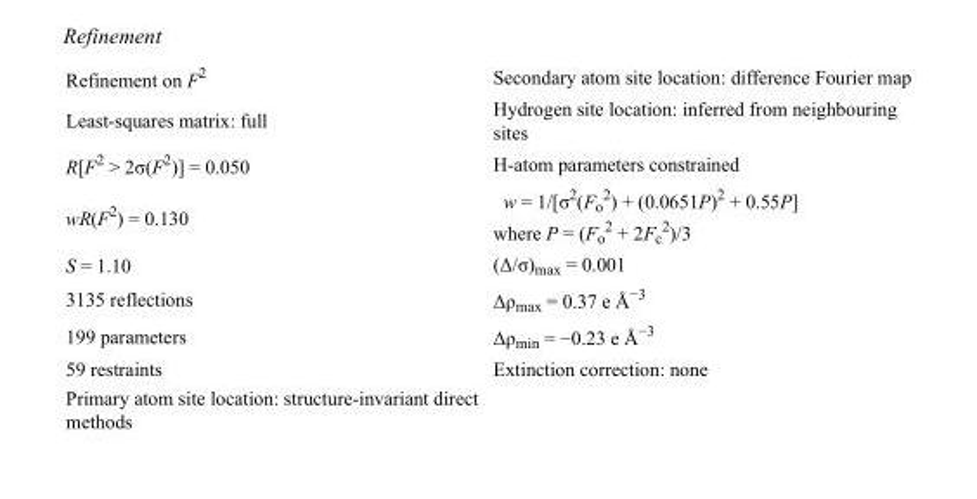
<table><tbody><tr><td>Refinement on F<sup>2</sup></td><td>Secondary atom site location: difference Fourier map</td></tr><tr><td>Least-squares matrix: full</td><td>Hydrogen site location: inferred from neighbouring sites</td></tr><tr><td>R[F<sup>2</sup> &gt; 2σ(F<sup>2</sup>)] = 0.050</td><td>H-atom parameters constrained</td></tr><tr><td>wR(F<sup>2</sup>) = 0.130</td><td>w = 1/[σ<sup>2</sup>(F<sub>o</sub> <sup>2</sup>) + (0.0651P)<sup>2</sup> + 0.55P] where P = (F<sub>o</sub> <sup>2</sup> + 2F<sub>c</sub> <sup>2</sup>)/3</td></tr><tr><td>S = 1.10</td><td>(Δ/σ)<sub>max</sub> = 0.001</td></tr><tr><td>3135 reflections</td><td>Δρ<sub>max</sub> = 0.37 e Å<sup>−3</sup></td></tr><tr><td>199 parameters</td><td>Δρ<sub>min</sub> = −0.23 e Å<sup>−3</sup></td></tr><tr><td>59 restraints</td><td>Extinction correction: none</td></tr><tr><td>Primary atom site location: structure-invariant direct methods</td><td></td></tr></tbody></table>